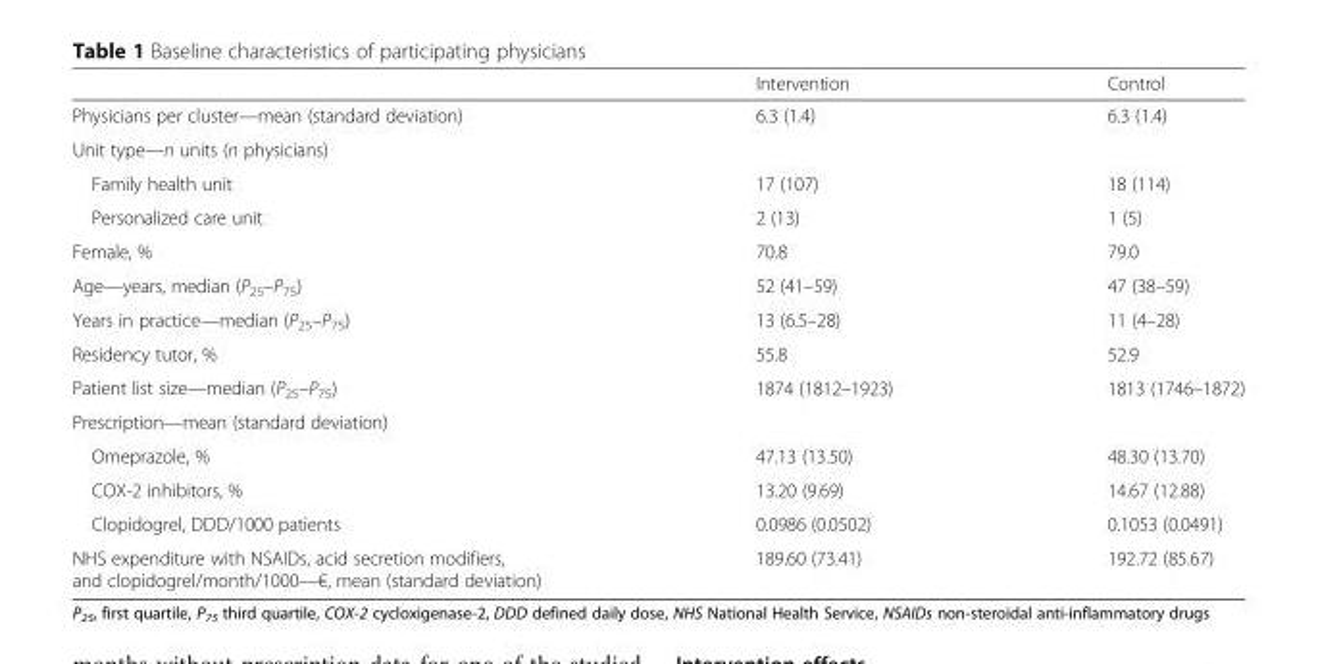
<table><thead><tr><td></td><td>Intervention</td><td>Control</td></tr></thead><tbody><tr><td>Physicians per cluster—mean (standard deviation)</td><td>6.3 (1.4)</td><td>6.3 (1.4)</td></tr><tr><td colspan="3">Unit type—n units (n physicians)</td></tr><tr><td>Family health unit</td><td>17 (107)</td><td>18 (114)</td></tr><tr><td>Personalized care unit</td><td>2 (13)</td><td>1 (5)</td></tr><tr><td>Female, %</td><td>70.8</td><td>79.0</td></tr><tr><td>Age—years, median (P<sub>25</sub>–P<sub>75</sub>)</td><td>52 (41–59)</td><td>47 (38–59)</td></tr><tr><td>Years in practice—median (P<sub>25</sub>–P<sub>75</sub>)</td><td>13 (6.5–28)</td><td>11 (4–28)</td></tr><tr><td>Residency tutor, %</td><td>55.8</td><td>52.9</td></tr><tr><td>Patient list size—median (P<sub>25</sub>–P<sub>75</sub>)</td><td>1874 (1812–1923)</td><td>1813 (1746–1872)</td></tr><tr><td colspan="3">Prescription—mean (standard deviation)</td></tr><tr><td>Omeprazole, %</td><td>47.13 (13.50)</td><td>48.30 (13.70)</td></tr><tr><td>COX-2 inhibitors, %</td><td>13.20 (9.69)</td><td>14.67 (12.88)</td></tr><tr><td>Clopidogrel, DDD/1000 patients</td><td>0.0986 (0.0502)</td><td>0.1053 (0.0491)</td></tr><tr><td>NHS expenditure with NSAIDs, acid secretion modifiers, and clopidogrel/month/1000—€, mean (standard deviation)</td><td>189.60 (73.41)</td><td>192.72 (85.67)</td></tr></tbody></table>